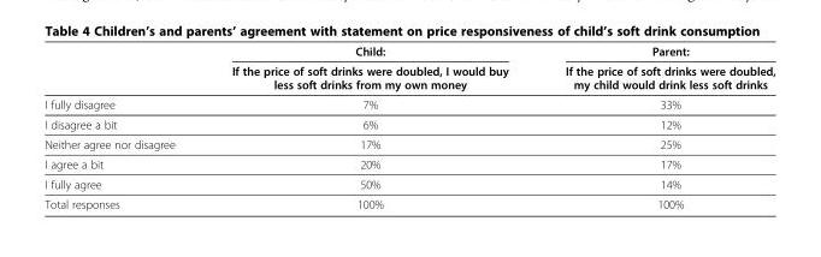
<table><thead><tr><td rowspan="2"></td><td rowspan="2">Child: If the price of soft drinks were doubled, I would buy less soft drinks from my own money</td><td rowspan="2">Parent: If the price of soft drinks were doubled, my child would drink less soft drinks</td></tr><tr></tr></thead><tbody><tr><td>I fully disagree</td><td>7%</td><td>33%</td></tr><tr><td>I disagree a bit</td><td>6%</td><td>12%</td></tr><tr><td>Neither agree nor disagree</td><td>17%</td><td>25%</td></tr><tr><td>I agree a bit</td><td>20%</td><td>17%</td></tr><tr><td>I fully agree</td><td>50%</td><td>14%</td></tr><tr><td>Total responses</td><td>100%</td><td>100%</td></tr></tbody></table>